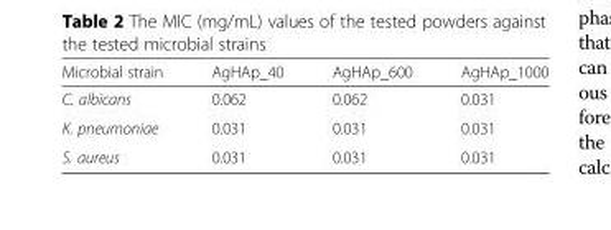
<table><thead><tr><td>Microbial strain</td><td>AgHAp_40</td><td>AgHAp_600</td><td>AgHAp_1000</td></tr></thead><tbody><tr><td>C. albicans</td><td>0.062</td><td>0.062</td><td>0.031</td></tr><tr><td>K. pneumoniae</td><td>0.031</td><td>0.031</td><td>0.031</td></tr><tr><td>S. aureus</td><td>0.031</td><td>0.031</td><td>0.031</td></tr></tbody></table>